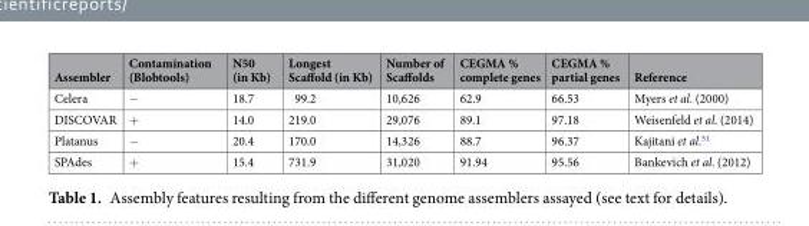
<table><thead><tr><td>Assembler</td><td>Contamination (Blobtools)</td><td>N50 (in Kb)</td><td>Longest Scaffold (in Kb)</td><td>Number of Scaffolds</td><td>CEGMA % complete genes</td><td>CEGMA % partial genes</td><td>Reference</td></tr></thead><tbody><tr><td>Celera</td><td>−</td><td>18.7</td><td>99.2</td><td>10,626</td><td>62.9</td><td>66.53</td><td>Myers et al. (2000)</td></tr><tr><td>DISCOVAR</td><td>+</td><td>14.0</td><td>219.0</td><td>29,076</td><td>89.1</td><td>97.18</td><td>Weisenfeld et al. (2014)</td></tr><tr><td>Platanus</td><td>−</td><td>20.4</td><td>170.0</td><td>14,326</td><td>88.7</td><td>96.37</td><td>Kajitani et al.<sup>51</sup></td></tr><tr><td>SPAdes</td><td>+</td><td>15.4</td><td>731.9</td><td>31,020</td><td>91.94</td><td>95.56</td><td>Bankevich et al. (2012)</td></tr></tbody></table>